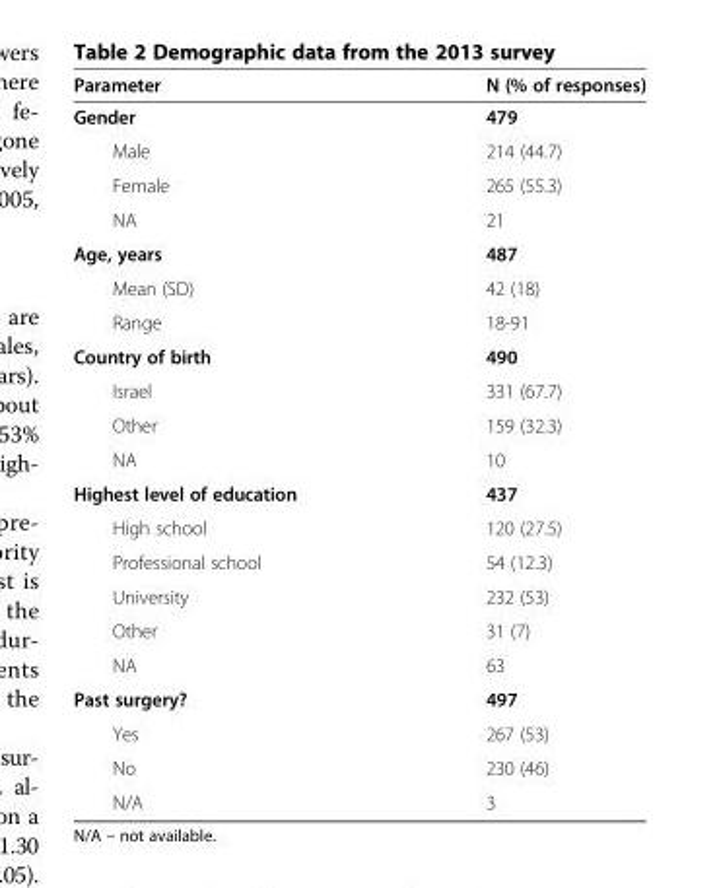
<table><thead><tr><td>Parameter</td><td>N (% of responses)</td></tr></thead><tbody><tr><td>Gender</td><td>479</td></tr><tr><td>Male</td><td>214 (44.7)</td></tr><tr><td>Female</td><td>265 (55.3)</td></tr><tr><td>NA</td><td>21</td></tr><tr><td>Age, years</td><td>487</td></tr><tr><td>Mean (SD)</td><td>42 (18)</td></tr><tr><td>Range</td><td>18-91</td></tr><tr><td>Country of birth</td><td>490</td></tr><tr><td>Israel</td><td>331 (67.7)</td></tr><tr><td>Other</td><td>159 (32.3)</td></tr><tr><td>NA</td><td>10</td></tr><tr><td>Highest level of education</td><td>437</td></tr><tr><td>High school</td><td>120 (27.5)</td></tr><tr><td>Professional school</td><td>54 (12.3)</td></tr><tr><td>University</td><td>232 (53)</td></tr><tr><td>Other</td><td>31 (7)</td></tr><tr><td>NA</td><td>63</td></tr><tr><td>Past surgery?</td><td>497</td></tr><tr><td>Yes</td><td>267 (53)</td></tr><tr><td>No</td><td>230 (46)</td></tr><tr><td>N/A</td><td>3</td></tr></tbody></table>